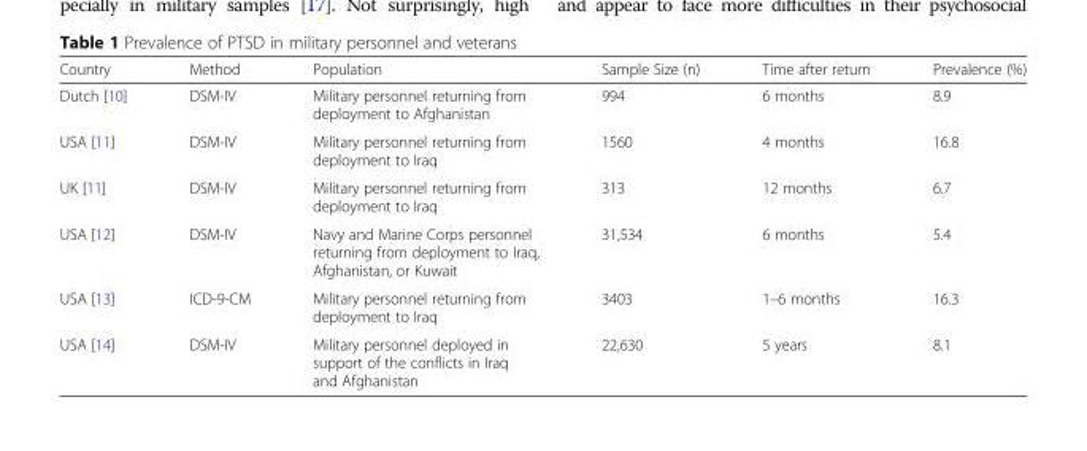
<table><thead><tr><td>Country</td><td>Method</td><td>Population</td><td>Sample Size (n)</td><td>Time after return</td><td>Prevalence (%)</td></tr></thead><tbody><tr><td>Dutch [10]</td><td>DSM-IV</td><td>Military personnel returning from deployment to Afghanistan</td><td>994</td><td>6 months</td><td>8.9</td></tr><tr><td>USA [11]</td><td>DSM-IV</td><td>Military personnel returning from deployment to Iraq</td><td>1560</td><td>4 months</td><td>16.8</td></tr><tr><td>UK [11]</td><td>DSM-IV</td><td>Military personnel returning from deployment to Iraq</td><td>313</td><td>12 months</td><td>6.7</td></tr><tr><td>USA [12]</td><td>DSM-IV</td><td>Navy and Marine Corps personnel returning from deployment to Iraq, Afghanistan, or Kuwait</td><td>31,534</td><td>6 months</td><td>5.4</td></tr><tr><td>USA [13]</td><td>ICD-9-CM</td><td>Military personnel returning from deployment to Iraq</td><td>3403</td><td>1–6 months</td><td>16.3</td></tr><tr><td>USA [14]</td><td>DSM-IV</td><td>Military personnel deployed in support of the conflicts in Iraq and Afghanistan</td><td>22,630</td><td>5 years</td><td>8.1</td></tr></tbody></table>